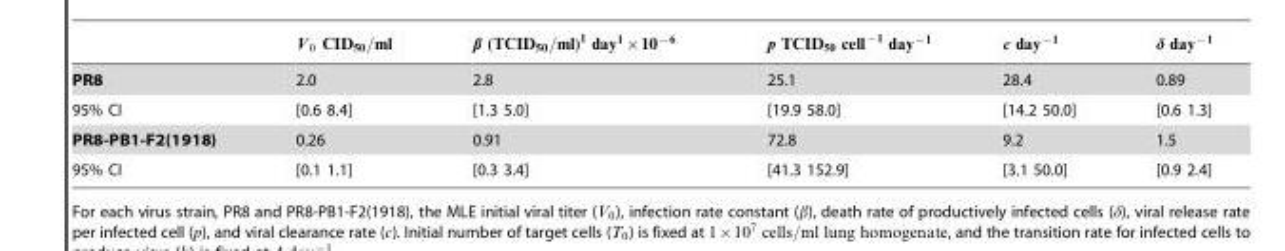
<table><tbody><tr><td>PR8</td><td>2.0</td><td>2.8</td><td>25.1</td><td>28.4</td><td>0.89</td></tr><tr><td>95% CI</td><td>[0.6 8.4]</td><td>[1.3 5.0]</td><td>[19.9 58.0]</td><td>[14.2 50.0]</td><td>[0.6 1.3]</td></tr><tr><td>PR8-PB1-F2(1918)</td><td>0.26</td><td>0.91</td><td>72.8</td><td>9.2</td><td>1.5</td></tr><tr><td>95% CI</td><td>[0.1 1.1]</td><td>[0.3 3.4]</td><td>[41.3 152.9]</td><td>[3.1 50.0]</td><td>[0.9 2.4]</td></tr></tbody></table>